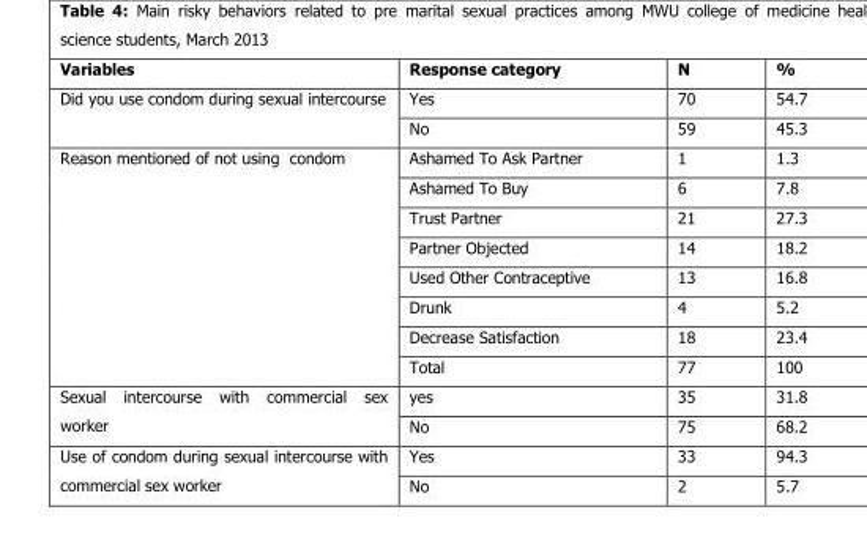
<table><thead><tr><td>Variables</td><td>Response category</td><td>N</td><td>%</td></tr></thead><tbody><tr><td rowspan="2">Did you use condom during sexual intercourse</td><td>Yes</td><td>70</td><td>54.7</td></tr><tr><td>No</td><td>59</td><td>45.3</td></tr><tr><td rowspan="8">Reason mentioned of not using condom</td><td>Ashamed To Ask Partner</td><td>1</td><td>1.3</td></tr><tr><td>Ashamed To Buy</td><td>6</td><td>7.8</td></tr><tr><td>Trust Partner</td><td>21</td><td>27.3</td></tr><tr><td>Partner Objected</td><td>14</td><td>18.2</td></tr><tr><td>Used Other Contraceptive</td><td>13</td><td>16.8</td></tr><tr><td>Drunk</td><td>4</td><td>5.2</td></tr><tr><td>Decrease Satisfaction</td><td>18</td><td>23.4</td></tr><tr><td>Total</td><td>77</td><td>100</td></tr><tr><td rowspan="2">Sexual intercourse with commercial sex worker</td><td>yes</td><td>35</td><td>31.8</td></tr><tr><td>No</td><td>75</td><td>68.2</td></tr><tr><td rowspan="2">Use of condom during sexual intercourse with commercial sex worker</td><td>Yes</td><td>33</td><td>94.3</td></tr><tr><td>No</td><td>2</td><td>5.7</td></tr></tbody></table>